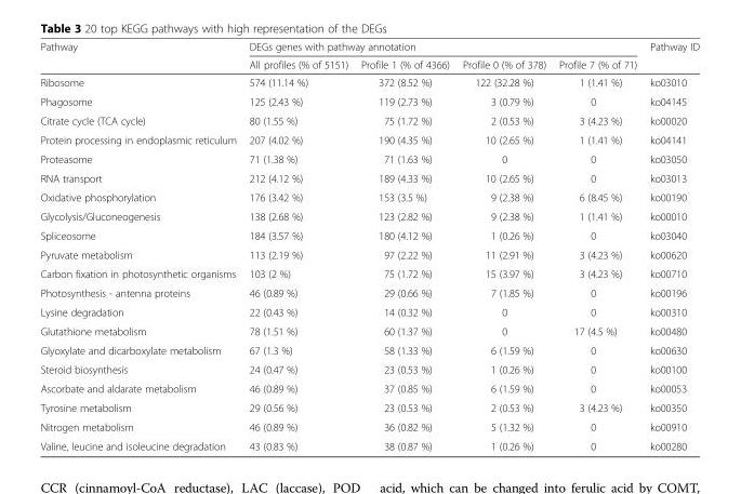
<table><thead><tr><td rowspan="2">Pathway</td><td colspan="4">DEGs genes with pathway annotation</td><td rowspan="2">Pathway ID</td></tr><tr><td>All profiles (% of 5151)</td><td>Profile 1 (% of 4366)</td><td>Profile 0 (% of 378)</td><td>Profile 7 (% of 71)</td></tr></thead><tbody><tr><td>Ribosome</td><td>574 (11.14 %)</td><td>372 (8.52 %)</td><td>122 (32.28 %)</td><td>1 (1.41 %)</td><td>ko03010</td></tr><tr><td>Phagosome</td><td>125 (2.43 %)</td><td>119 (2.73 %)</td><td>3 (0.79 %)</td><td>0</td><td>ko04145</td></tr><tr><td>Citrate cycle (TCA cycle)</td><td>80 (1.55 %)</td><td>75 (1.72 %)</td><td>2 (0.53 %)</td><td>3 (4.23 %)</td><td>ko00020</td></tr><tr><td>Protein processing in endoplasmic reticulum</td><td>207 (4.02 %)</td><td>190 (4.35 %)</td><td>10 (2.65 %)</td><td>1 (1.41 %)</td><td>ko04141</td></tr><tr><td>Proteasome</td><td>71 (1.38 %)</td><td>71 (1.63 %)</td><td>0</td><td>0</td><td>ko03050</td></tr><tr><td>RNA transport</td><td>212 (4.12 %)</td><td>189 (4.33 %)</td><td>10 (2.65 %)</td><td>0</td><td>ko03013</td></tr><tr><td>Oxidative phosphorylation</td><td>176 (3.42 %)</td><td>153 (3.5 %)</td><td>9 (2.38 %)</td><td>6 (8.45 %)</td><td>ko00190</td></tr><tr><td>Glycolysis/Gluconeogenesis</td><td>138 (2.68 %)</td><td>123 (2.82 %)</td><td>9 (2.38 %)</td><td>1 (1.41 %)</td><td>ko00010</td></tr><tr><td>Spliceosome</td><td>184 (3.57 %)</td><td>180 (4.12 %)</td><td>1 (0.26 %)</td><td>0</td><td>ko03040</td></tr><tr><td>Pyruvate metabolism</td><td>113 (2.19 %)</td><td>97 (2.22 %)</td><td>11 (2.91 %)</td><td>3 (4.23 %)</td><td>ko00620</td></tr><tr><td>Carbon fixation in photosynthetic organisms</td><td>103 (2 %)</td><td>75 (1.72 %)</td><td>15 (3.97 %)</td><td>3 (4.23 %)</td><td>ko00710</td></tr><tr><td>Photosynthesis - antenna proteins</td><td>46 (0.89 %)</td><td>29 (0.66 %)</td><td>7 (1.85 %)</td><td>0</td><td>ko00196</td></tr><tr><td>Lysine degradation</td><td>22 (0.43 %)</td><td>14 (0.32 %)</td><td>0</td><td>0</td><td>ko00310</td></tr><tr><td>Glutathione metabolism</td><td>78 (1.51 %)</td><td>60 (1.37 %)</td><td>0</td><td>17 (4.5 %)</td><td>ko00480</td></tr><tr><td>Glyoxylate and dicarboxylate metabolism</td><td>67 (1.3 %)</td><td>58 (1.33 %)</td><td>6 (1.59 %)</td><td>0</td><td>ko00630</td></tr><tr><td>Steroid biosynthesis</td><td>24 (0.47 %)</td><td>23 (0.53 %)</td><td>1 (0.26 %)</td><td>0</td><td>ko00100</td></tr><tr><td>Ascorbate and aldarate metabolism</td><td>46 (0.89 %)</td><td>37 (0.85 %)</td><td>6 (1.59 %)</td><td>0</td><td>ko00053</td></tr><tr><td>Tyrosine metabolism</td><td>29 (0.56 %)</td><td>23 (0.53 %)</td><td>2 (0.53 %)</td><td>3 (4.23 %)</td><td>ko00350</td></tr><tr><td>Nitrogen metabolism</td><td>46 (0.89 %)</td><td>36 (0.82 %)</td><td>5 (1.32 %)</td><td>0</td><td>ko00910</td></tr><tr><td>Valine, leucine and isoleucine degradation</td><td>43 (0.83 %)</td><td>38 (0.87 %)</td><td>1 (0.26 %)</td><td>0</td><td>ko00280</td></tr></tbody></table>